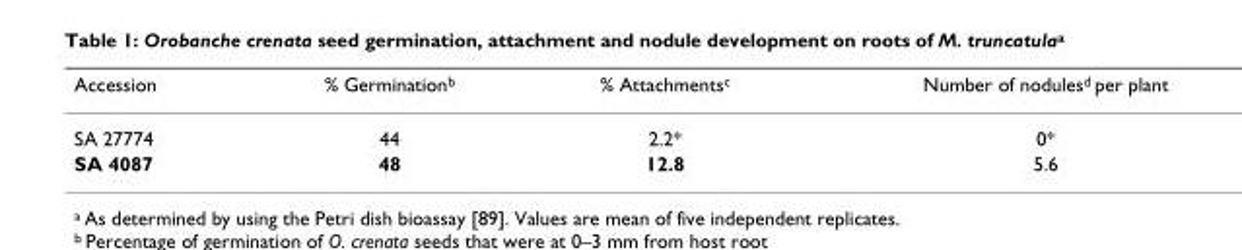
<table><thead><tr><td>Accession</td><td>% Germination<sup>b</sup></td><td>% Attachments<sup>c</sup></td><td>Number of nodules<sup>d</sup> per plant</td></tr></thead><tbody><tr><td>SA 27774</td><td>44</td><td>2.2*</td><td>0*</td></tr><tr><td>SA 4087</td><td>48</td><td>12.8</td><td>5.6</td></tr></tbody></table>